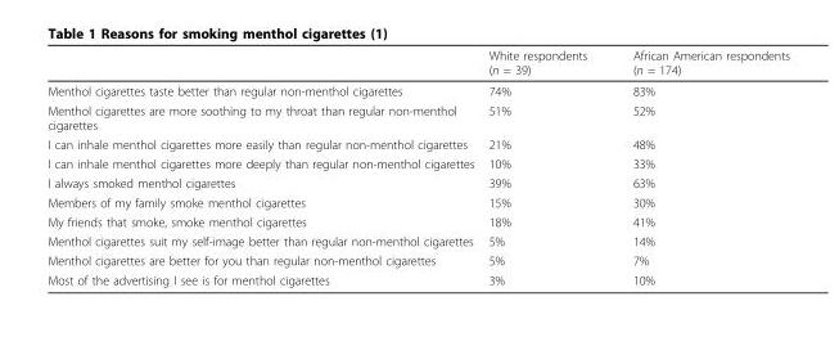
<table><thead><tr><td></td><td>White respondents (n = 39)</td><td>African American respondents (n = 174)</td></tr></thead><tbody><tr><td>Menthol cigarettes taste better than regular non-menthol cigarettes</td><td>74%</td><td>83%</td></tr><tr><td>Menthol cigarettes are more soothing to my throat than regular non-menthol cigarettes</td><td>51%</td><td>52%</td></tr><tr><td>I can inhale menthol cigarettes more easily than regular non-menthol cigarettes</td><td>21%</td><td>48%</td></tr><tr><td>I can inhale menthol cigarettes more deeply than regular non-menthol cigarettes</td><td>10%</td><td>33%</td></tr><tr><td>I always smoked menthol cigarettes</td><td>39%</td><td>63%</td></tr><tr><td>Members of my family smoke menthol cigarettes</td><td>15%</td><td>30%</td></tr><tr><td>My friends that smoke, smoke menthol cigarettes</td><td>18%</td><td>41%</td></tr><tr><td>Menthol cigarettes suit my self-image better than regular non-menthol cigarettes</td><td>5%</td><td>14%</td></tr><tr><td>Menthol cigarettes are better for you than regular non-menthol cigarettes</td><td>5%</td><td>7%</td></tr><tr><td>Most of the advertising I see is for menthol cigarettes</td><td>3%</td><td>10%</td></tr></tbody></table>